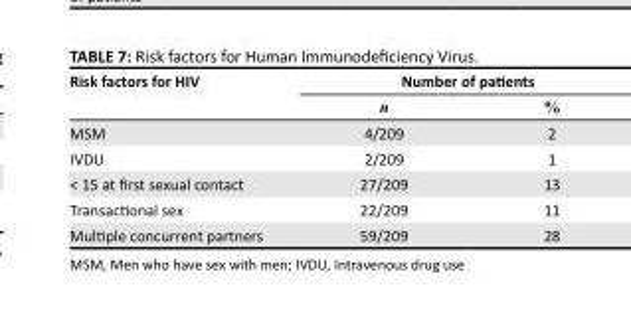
<table><thead><tr><td rowspan="2">Risk factors for HIV</td><td colspan="2">Number of patients</td></tr><tr><td>n</td><td>%</td></tr></thead><tbody><tr><td>MSM</td><td>4/209</td><td>2</td></tr><tr><td>IVDU</td><td>2/209</td><td>1</td></tr><tr><td>&lt; 15 at first sexual contact</td><td>27/209</td><td>13</td></tr><tr><td>Transactional sex</td><td>22/209</td><td>11</td></tr><tr><td>Multiple concurrent partners</td><td>59/209</td><td>28</td></tr></tbody></table>